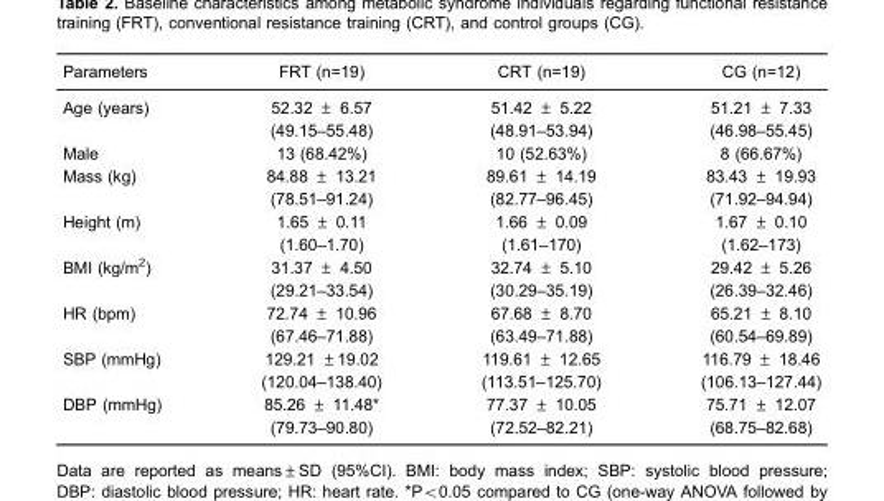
<table><thead><tr><td>Parameters</td><td>FRT (n=19)</td><td>CRT (n=19)</td><td>CG (n=12)</td></tr></thead><tbody><tr><td>Age (years)</td><td>52.32 ± 6.57 (49.15–55.48)</td><td>51.42 ± 5.22 (48.91–53.94)</td><td>51.21 ± 7.33 (46.98–55.45)</td></tr><tr><td>Male</td><td>13 (68.42%)</td><td>10 (52.63%)</td><td>8 (66.67%)</td></tr><tr><td>Mass (kg)</td><td>84.88 ± 13.21 (78.51–91.24)</td><td>89.61 ± 14.19 (82.77–96.45)</td><td>83.43 ± 19.93 (71.92–94.94)</td></tr><tr><td>Height (m)</td><td>1.65 ± 0.11 (1.60–1.70)</td><td>1.66 ± 0.09 (1.61–170)</td><td>1.67 ± 0.10 (1.62–173)</td></tr><tr><td>BMI (kg/m<sup>2</sup>)</td><td>31.37 ± 4.50 (29.21–33.54)</td><td>32.74 ± 5.10 (30.29–35.19)</td><td>29.42 ± 5.26 (26.39–32.46)</td></tr><tr><td>HR (bpm)</td><td>72.74 ± 10.96 (67.46–71.88)</td><td>67.68 ± 8.70 (63.49–71.88)</td><td>65.21 ± 8.10 (60.54–69.89)</td></tr><tr><td>SBP (mmHg)</td><td>129.21 ±19.02 (120.04–138.40)</td><td>119.61 ± 12.65 (113.51–125.70)</td><td>116.79 ± 18.46 (106.13–127.44)</td></tr><tr><td>DBP (mmHg)</td><td>85.26 ± 11.48* (79.73–90.80)</td><td>77.37 ± 10.05 (72.52–82.21)</td><td>75.71 ± 12.07 (68.75–82.68)</td></tr></tbody></table>